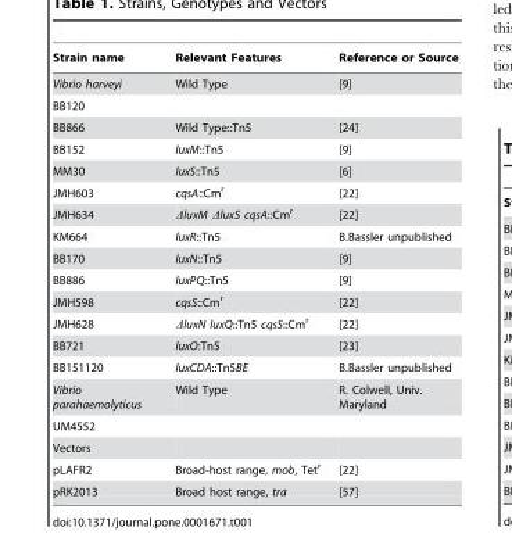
<table><thead><tr><td>Strain name</td><td>Relevant Features</td><td>Reference or Source</td></tr></thead><tbody><tr><td>Vibrio harveyi</td><td>Wild Type</td><td>[9]</td></tr><tr><td colspan="3">BB120</td></tr><tr><td>BB866</td><td>Wild Type::Tn5</td><td>[24]</td></tr><tr><td>BB152</td><td>luxM::Tn5</td><td>[9]</td></tr><tr><td>MM30</td><td>luxS::Tn5</td><td>[6]</td></tr><tr><td>JMH603</td><td>cqsA::Cm<sup>r</sup></td><td>[22]</td></tr><tr><td>JMH634</td><td>ΔluxM ΔluxS cqsA::Cm<sup>r</sup></td><td>[22]</td></tr><tr><td>KM664</td><td>luxR::Tn5</td><td>B.Bassler unpublished</td></tr><tr><td>BB170</td><td>luxN::Tn5</td><td>[9]</td></tr><tr><td>BB886</td><td>luxPQ::Tn5</td><td>[9]</td></tr><tr><td>JMH598</td><td>cqsS::Cm<sup>r</sup></td><td>[22]</td></tr><tr><td>JMH628</td><td>ΔluxN luxQ::Tn5 cqsS::Cm<sup>r</sup></td><td>[22]</td></tr><tr><td>BB721</td><td>luxO:Tn5</td><td>[23]</td></tr><tr><td>BB151120</td><td>luxCDA::Tn5BE</td><td>B.Bassler unpublished</td></tr><tr><td>Vibrio parahaemolyticus</td><td>Wild Type</td><td>R. Colwell, Univ. Maryland</td></tr><tr><td colspan="3">UM4552</td></tr><tr><td colspan="3">Vectors</td></tr><tr><td>pLAFR2</td><td>Broad-host range, mob, Tet<sup>r</sup></td><td>[22]</td></tr><tr><td>pRK2013</td><td>Broad host range, tra</td><td>[57]</td></tr></tbody></table>